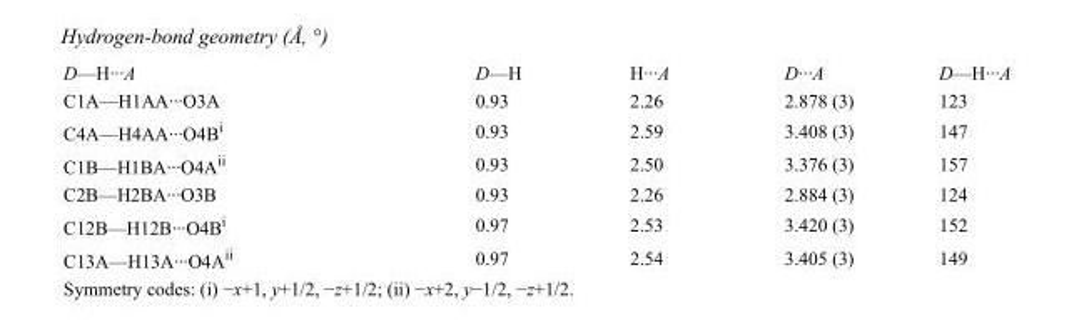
<table><tbody><tr><td>D—H···A</td><td>D—H</td><td>H···A</td><td>D···A</td><td>D—H···A</td></tr><tr><td>C1A—H1AA···O3A</td><td>0.93</td><td>2.26</td><td>2.878 (3)</td><td>123</td></tr><tr><td>C4A—H4AA···O4B<sup>i</sup></td><td>0.93</td><td>2.59</td><td>3.408 (3)</td><td>147</td></tr><tr><td>C1B—H1BA···O4A<sup>ii</sup></td><td>0.93</td><td>2.50</td><td>3.376 (3)</td><td>157</td></tr><tr><td>C2B—H2BA···O3B</td><td>0.93</td><td>2.26</td><td>2.884 (3)</td><td>124</td></tr><tr><td>C12B—H12B···O4B<sup>i</sup></td><td>0.97</td><td>2.53</td><td>3.420 (3)</td><td>152</td></tr><tr><td>C13A—H13A···O4A<sup>ii</sup></td><td>0.97</td><td>2.54</td><td>3.405 (3)</td><td>149</td></tr></tbody></table>